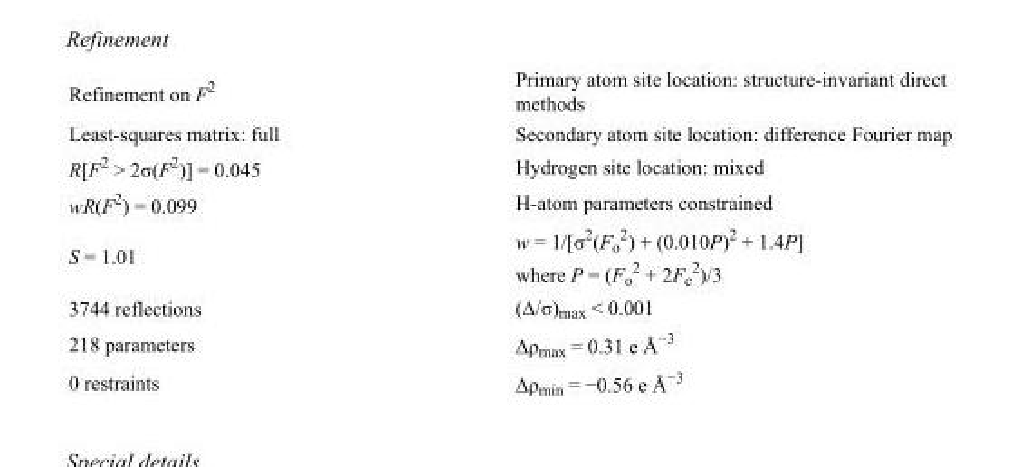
<table><tbody><tr><td>Refinement on F<sup>2</sup></td><td>Primary atom site location: structure-invariant direct methods</td></tr><tr><td>Least-squares matrix: full</td><td>Secondary atom site location: difference Fourier map</td></tr><tr><td>R[F<sup>2</sup> &gt; 2σ(F<sup>2</sup>)] = 0.045</td><td>Hydrogen site location: mixed</td></tr><tr><td>wR(F<sup>2</sup>) = 0.099</td><td>H-atom parameters constrained</td></tr><tr><td>S = 1.01</td><td>w = 1/[σ<sup>2</sup>(F<sub>o</sub> <sup>2</sup>) + (0.010P)<sup>2</sup> + 1.4P] where P = (F<sub>o</sub> <sup>2</sup> + 2F<sub>c</sub> <sup>2</sup>)/3</td></tr><tr><td>3744 reflections</td><td>(Δ/σ)<sub>max</sub> &lt; 0.001</td></tr><tr><td>218 parameters</td><td>Δρ<sub>max</sub> = 0.31 e Å<sup>−3</sup></td></tr><tr><td>0 restraints</td><td>Δρ<sub>min</sub> = −0.56 e Å<sup>−3</sup></td></tr></tbody></table>